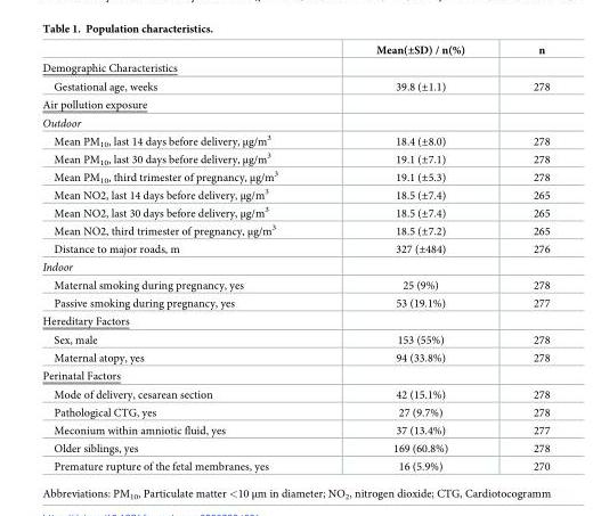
<table><thead><tr><td></td><td>Mean(±SD) / n(%)</td><td>n</td></tr></thead><tbody><tr><td colspan="3">Demographic Characteristics</td></tr><tr><td>Gestational age, weeks</td><td>39.8 (±1.1)</td><td>278</td></tr><tr><td colspan="3">Air pollution exposure</td></tr><tr><td colspan="3">Outdoor</td></tr><tr><td>Mean PM<sub>10</sub>, last 14 days before delivery, μg/m<sup>3</sup></td><td>18.4 (±8.0)</td><td>278</td></tr><tr><td>Mean PM<sub>10</sub>, last 30 days before delivery, μg/m<sup>3</sup></td><td>19.1 (±7.1)</td><td>278</td></tr><tr><td>Mean PM<sub>10</sub>, third trimester of pregnancy, μg/m<sup>3</sup></td><td>19.1 (±5.3)</td><td>278</td></tr><tr><td>Mean NO2, last 14 days before delivery, μg/m<sup>3</sup></td><td>18.5 (±7.4)</td><td>265</td></tr><tr><td>Mean NO2, last 30 days before delivery, μg/m<sup>3</sup></td><td>18.5 (±7.4)</td><td>265</td></tr><tr><td>Mean NO2, third trimester of pregnancy, μg/m<sup>3</sup></td><td>18.5 (±7.2)</td><td>265</td></tr><tr><td>Distance to major roads, m</td><td>327 (±484)</td><td>276</td></tr><tr><td colspan="3">Indoor</td></tr><tr><td>Maternal smoking during pregnancy, yes</td><td>25 (9%)</td><td>278</td></tr><tr><td>Passive smoking during pregnancy, yes</td><td>53 (19.1%)</td><td>277</td></tr><tr><td colspan="3">Hereditary Factors</td></tr><tr><td>Sex, male</td><td>153 (55%)</td><td>278</td></tr><tr><td>Maternal atopy, yes</td><td>94 (33.8%)</td><td>278</td></tr><tr><td colspan="3">Perinatal Factors</td></tr><tr><td>Mode of delivery, cesarean section</td><td>42 (15.1%)</td><td>278</td></tr><tr><td>Pathological CTG, yes</td><td>27 (9.7%)</td><td>278</td></tr><tr><td>Meconium within amniotic fluid, yes</td><td>37 (13.4%)</td><td>277</td></tr><tr><td>Older siblings, yes</td><td>169 (60.8%)</td><td>278</td></tr><tr><td>Premature rupture of the fetal membranes, yes</td><td>16 (5.9%)</td><td>270</td></tr></tbody></table>